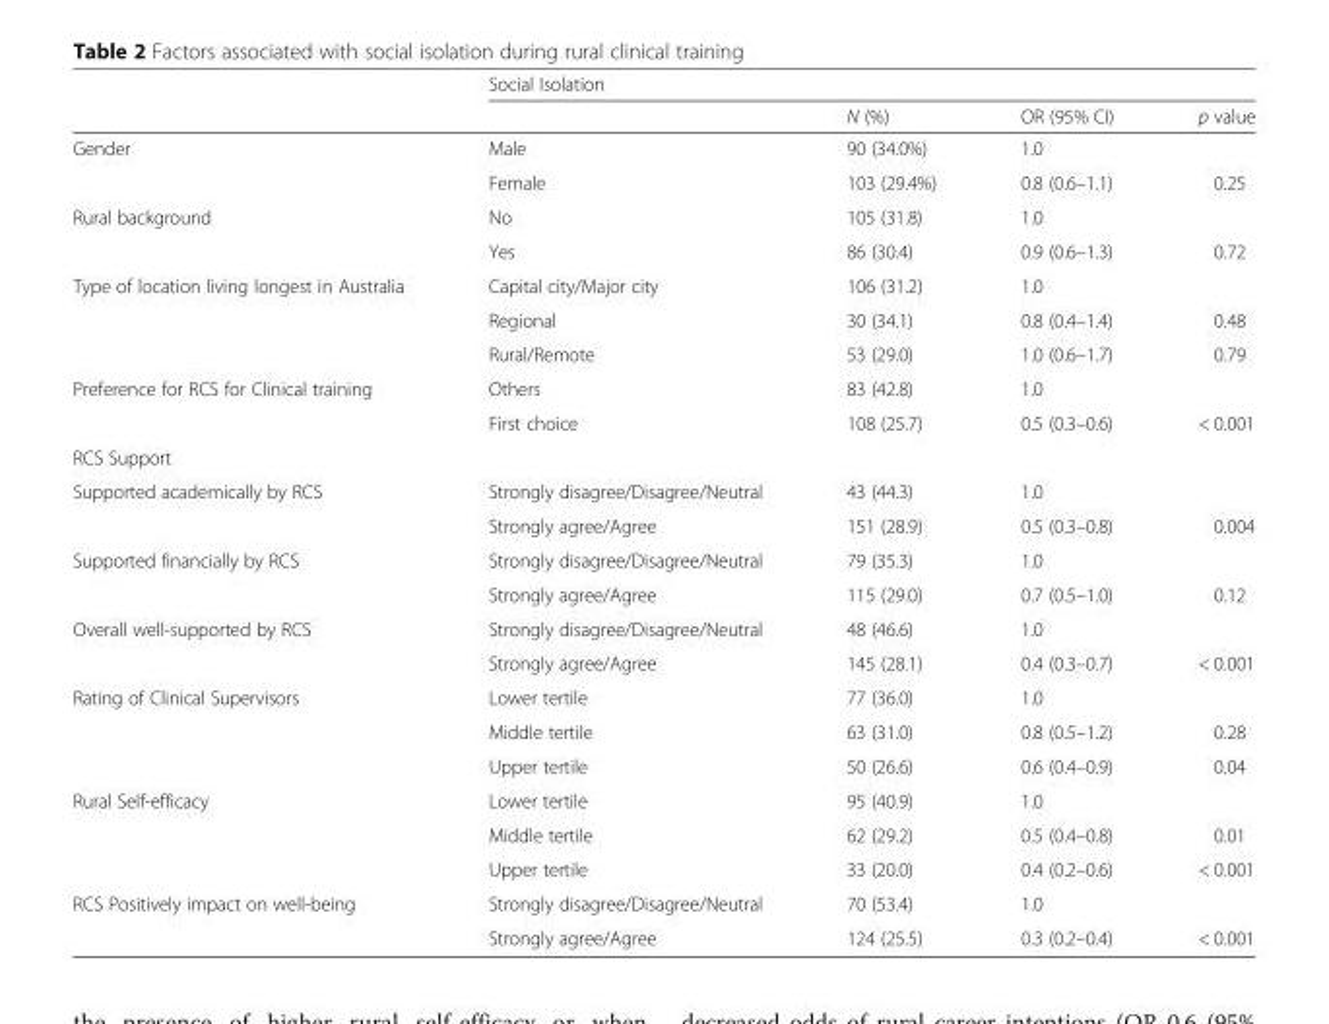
<table><thead><tr><td rowspan="2"></td><td colspan="4">Social Isolation</td></tr><tr><td></td><td>N (%)</td><td>OR (95% CI)</td><td>p value</td></tr></thead><tbody><tr><td rowspan="2">Gender</td><td>Male</td><td>90 (34.0%)</td><td>1.0</td><td></td></tr><tr><td>Female</td><td>103 (29.4%)</td><td>0.8 (0.6–1.1)</td><td>0.25</td></tr><tr><td rowspan="2">Rural background</td><td>No</td><td>105 (31.8)</td><td>1.0</td><td></td></tr><tr><td>Yes</td><td>86 (30.4)</td><td>0.9 (0.6–1.3)</td><td>0.72</td></tr><tr><td rowspan="3">Type of location living longest in Australia</td><td>Capital city/Major city</td><td>106 (31.2)</td><td>1.0</td><td></td></tr><tr><td>Regional</td><td>30 (34.1)</td><td>0.8 (0.4–1.4)</td><td>0.48</td></tr><tr><td>Rural/Remote</td><td>53 (29.0)</td><td>1.0 (0.6–1.7)</td><td>0.79</td></tr><tr><td rowspan="2">Preference for RCS for Clinical training</td><td>Others</td><td>83 (42.8)</td><td>1.0</td><td></td></tr><tr><td>First choice</td><td>108 (25.7)</td><td>0.5 (0.3–0.6)</td><td>&lt; 0.001</td></tr><tr><td colspan="5">RCS Support</td></tr><tr><td rowspan="2">Supported academically by RCS</td><td>Strongly disagree/Disagree/Neutral</td><td>43 (44.3)</td><td>1.0</td><td></td></tr><tr><td>Strongly agree/Agree</td><td>151 (28.9)</td><td>0.5 (0.3–0.8)</td><td>0.004</td></tr><tr><td rowspan="2">Supported financially by RCS</td><td>Strongly disagree/Disagree/Neutral</td><td>79 (35.3)</td><td>1.0</td><td></td></tr><tr><td>Strongly agree/Agree</td><td>115 (29.0)</td><td>0.7 (0.5–1.0)</td><td>0.12</td></tr><tr><td rowspan="2">Overall well-supported by RCS</td><td>Strongly disagree/Disagree/Neutral</td><td>48 (46.6)</td><td>1.0</td><td></td></tr><tr><td>Strongly agree/Agree</td><td>145 (28.1)</td><td>0.4 (0.3–0.7)</td><td>&lt; 0.001</td></tr><tr><td rowspan="3">Rating of Clinical Supervisors</td><td>Lower tertile</td><td>77 (36.0)</td><td>1.0</td><td></td></tr><tr><td>Middle tertile</td><td>63 (31.0)</td><td>0.8 (0.5–1.2)</td><td>0.28</td></tr><tr><td>Upper tertile</td><td>50 (26.6)</td><td>0.6 (0.4–0.9)</td><td>0.04</td></tr><tr><td rowspan="3">Rural Self-efficacy</td><td>Lower tertile</td><td>95 (40.9)</td><td>1.0</td><td></td></tr><tr><td>Middle tertile</td><td>62 (29.2)</td><td>0.5 (0.4–0.8)</td><td>0.01</td></tr><tr><td>Upper tertile</td><td>33 (20.0)</td><td>0.4 (0.2–0.6)</td><td>&lt; 0.001</td></tr><tr><td rowspan="2">RCS Positively impact on well-being</td><td>Strongly disagree/Disagree/Neutral</td><td>70 (53.4)</td><td>1.0</td><td></td></tr><tr><td>Strongly agree/Agree</td><td>124 (25.5)</td><td>0.3 (0.2–0.4)</td><td>&lt; 0.001</td></tr></tbody></table>